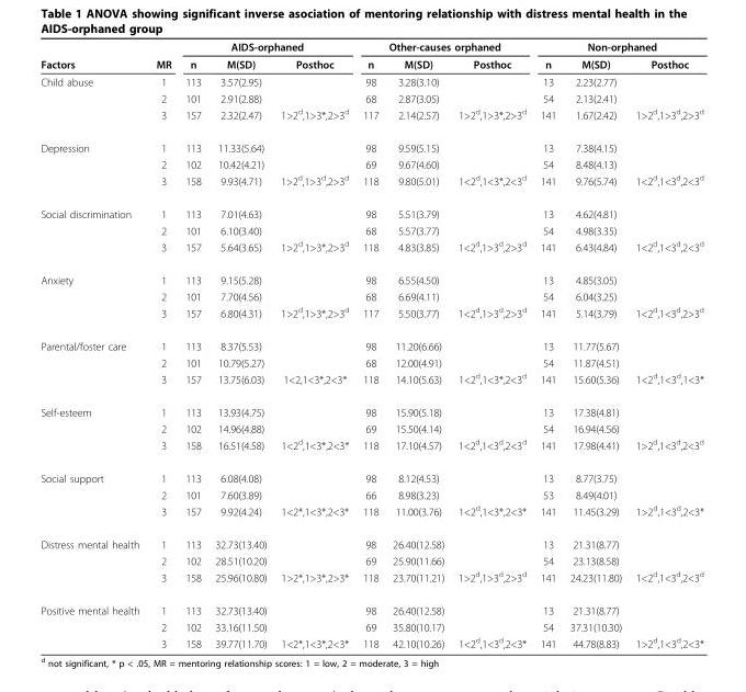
<table><thead><tr><td rowspan="2">Factors</td><td rowspan="2">MR</td><td colspan="3">AIDS-orphaned</td><td colspan="3">Other-causes orphaned</td><td colspan="3">Non-orphaned</td></tr><tr><td>n</td><td>M(SD)</td><td>Posthoc</td><td>n</td><td>M(SD)</td><td>Posthoc</td><td>n</td><td>M(SD)</td><td>Posthoc</td></tr></thead><tbody><tr><td rowspan="3">Child abuse</td><td>1</td><td>113</td><td>3.57(2.95)</td><td></td><td>98</td><td>3.28(3.10)</td><td></td><td>13</td><td>2.23(2.77)</td><td></td></tr><tr><td>2</td><td>101</td><td>2.91(2.88)</td><td></td><td>68</td><td>2.87(3.05)</td><td></td><td>54</td><td>2.13(2.41)</td><td></td></tr><tr><td>3</td><td>157</td><td>2.32(2.47)</td><td>1&gt;2<sup>d</sup>,1&gt;3*,2&gt;3<sup>d</sup></td><td>117</td><td>2.14(2.57)</td><td>1&gt;2<sup>d</sup>,1&gt;3*,2&gt;3<sup>d</sup></td><td>141</td><td>1.67(2.42)</td><td>1&gt;2<sup>d</sup>,1&gt;3<sup>d</sup>,2&gt;3<sup>d</sup></td></tr><tr><td rowspan="3">Depression</td><td>1</td><td>113</td><td>11.33(5.64)</td><td></td><td>98</td><td>9.59(5.15)</td><td></td><td>13</td><td>7.38(4.15)</td><td></td></tr><tr><td>2</td><td>102</td><td>10.42(4.21)</td><td></td><td>69</td><td>9.67(4.60)</td><td></td><td>54</td><td>8.48(4.13)</td><td></td></tr><tr><td>3</td><td>158</td><td>9.93(4.71)</td><td>1&gt;2<sup>d</sup>,1&gt;3<sup>d</sup>,2&gt;3<sup>d</sup></td><td>118</td><td>9.80(5.01)</td><td>1&lt;2<sup>d</sup>,1&lt;3*,2&lt;3<sup>d</sup></td><td>141</td><td>9.76(5.74)</td><td>1&lt;2<sup>d</sup>,1&lt;3<sup>d</sup>,2&lt;3<sup>d</sup></td></tr><tr><td rowspan="3">Social discrimination</td><td>1</td><td>113</td><td>7.01(4.63)</td><td></td><td>98</td><td>5.51(3.79)</td><td></td><td>13</td><td>4.62(4.81)</td><td></td></tr><tr><td>2</td><td>101</td><td>6.10(3.40)</td><td></td><td>68</td><td>5.57(3.77)</td><td></td><td>54</td><td>4.98(3.35)</td><td></td></tr><tr><td>3</td><td>157</td><td>5.64(3.65)</td><td>1&gt;2<sup>d</sup>,1&gt;3*,2&gt;3<sup>d</sup></td><td>118</td><td>4.83(3.85)</td><td>1&lt;2<sup>d</sup>,1&gt;3<sup>d</sup>,2&gt;3<sup>d</sup></td><td>141</td><td>6.43(4.84)</td><td>1&lt;2<sup>d</sup>,1&lt;3<sup>d</sup>,2&lt;3<sup>d</sup></td></tr><tr><td rowspan="3">Anxiety</td><td>1</td><td>113</td><td>9.15(5.28)</td><td></td><td>98</td><td>6.55(4.50)</td><td></td><td>13</td><td>4.85(3.05)</td><td></td></tr><tr><td>2</td><td>101</td><td>7.70(4.56)</td><td></td><td>68</td><td>6.69(4.11)</td><td></td><td>54</td><td>6.04(3.25)</td><td></td></tr><tr><td>3</td><td>157</td><td>6.80(4.31)</td><td>1&gt;2<sup>d</sup>,1&gt;3*,2&gt;3<sup>d</sup></td><td>117</td><td>5.50(3.77)</td><td>1&lt;2<sup>d</sup>,1&gt;3<sup>d</sup>,2&gt;3<sup>d</sup></td><td>141</td><td>5.14(3.79)</td><td>1&lt;2<sup>d</sup>,1&lt;3<sup>d</sup>,2&gt;3<sup>d</sup></td></tr><tr><td rowspan="3">Parental/foster care</td><td>1</td><td>113</td><td>8.37(5.53)</td><td></td><td>98</td><td>11.20(6.66)</td><td></td><td>13</td><td>11.77(5.67)</td><td></td></tr><tr><td>2</td><td>101</td><td>10.79(5.27)</td><td></td><td>68</td><td>12.00(4.91)</td><td></td><td>54</td><td>11.87(4.51)</td><td></td></tr><tr><td>3</td><td>157</td><td>13.75(6.03)</td><td>1&lt;2,1&lt;3*,2&lt;3*</td><td>118</td><td>14.10(5.63)</td><td>1&lt;2<sup>d</sup>,1&lt;3*,2&lt;3<sup>d</sup></td><td>141</td><td>15.60(5.36)</td><td>1&lt;2<sup>d</sup>,1&lt;3<sup>d</sup>,1&lt;3*</td></tr><tr><td rowspan="3">Self-esteem</td><td>1</td><td>113</td><td>13.93(4.75)</td><td></td><td>98</td><td>15.90(5.18)</td><td></td><td>13</td><td>17.38(4.81)</td><td></td></tr><tr><td>2</td><td>102</td><td>14.96(4.88)</td><td></td><td>69</td><td>15.50(4.14)</td><td></td><td>54</td><td>16.94(4.56)</td><td></td></tr><tr><td>3</td><td>158</td><td>16.51(4.58)</td><td>1&lt;2<sup>d</sup>,1&lt;3*,2&lt;3*</td><td>118</td><td>17.10(4.57)</td><td>1&lt;2<sup>d</sup>,1&lt;3<sup>d</sup>,2&lt;3<sup>d</sup></td><td>141</td><td>17.98(4.41)</td><td>1&gt;2<sup>d</sup>,1&lt;3<sup>d</sup>,2&lt;3<sup>d</sup></td></tr><tr><td rowspan="3">Social support</td><td>1</td><td>113</td><td>6.08(4.08)</td><td></td><td>98</td><td>8.12(4.53)</td><td></td><td>13</td><td>8.77(3.75)</td><td></td></tr><tr><td>2</td><td>101</td><td>7.60(3.89)</td><td></td><td>66</td><td>8.98(3.23)</td><td></td><td>53</td><td>8.49(4.01)</td><td></td></tr><tr><td>3</td><td>157</td><td>9.92(4.24)</td><td>1&lt;2*,1&lt;3*,2&lt;3*</td><td>118</td><td>11.00(3.76)</td><td>1&lt;2<sup>d</sup>,1&lt;3*,2&lt;3*</td><td>141</td><td>11.45(3.29)</td><td>1&gt;2<sup>d</sup>,1&lt;3<sup>d</sup>,2&lt;3*</td></tr><tr><td rowspan="3">Distress mental health</td><td>1</td><td>113</td><td>32.73(13.40)</td><td></td><td>98</td><td>26.40(12.58)</td><td></td><td>13</td><td>21.31(8.77)</td><td></td></tr><tr><td>2</td><td>102</td><td>28.51(10.20)</td><td></td><td>69</td><td>25.90(11.66)</td><td></td><td>54</td><td>23.13(8.58)</td><td></td></tr><tr><td>3</td><td>158</td><td>25.96(10.80)</td><td>1&gt;2*,1&gt;3*,2&gt;3*</td><td>118</td><td>23.70(11.21)</td><td>1&gt;2<sup>d</sup>,1&gt;3<sup>d</sup>,2&gt;3<sup>d</sup></td><td>141</td><td>24.23(11.80)</td><td>1&lt;2<sup>d</sup>,1&lt;3<sup>d</sup>,2&lt;3<sup>d</sup></td></tr><tr><td rowspan="3">Positive mental health</td><td>1</td><td>113</td><td>32.73(13.40)</td><td></td><td>98</td><td>26.40(12.58)</td><td></td><td>13</td><td>21.31(8.77)</td><td></td></tr><tr><td>2</td><td>102</td><td>33.16(11.50)</td><td></td><td>69</td><td>35.80(10.17)</td><td></td><td>54</td><td>37.31(10.30)</td><td></td></tr><tr><td>3</td><td>158</td><td>39.77(11.70)</td><td>1&lt;2*,1&lt;3*,2&lt;3*</td><td>118</td><td>42.10(10.26)</td><td>1&lt;2<sup>d</sup>,1&lt;3<sup>d</sup>,2&lt;3*</td><td>141</td><td>44.78(8.83)</td><td>1&gt;2<sup>d</sup>,1&lt;3<sup>d</sup>,2&lt;3*</td></tr></tbody></table>